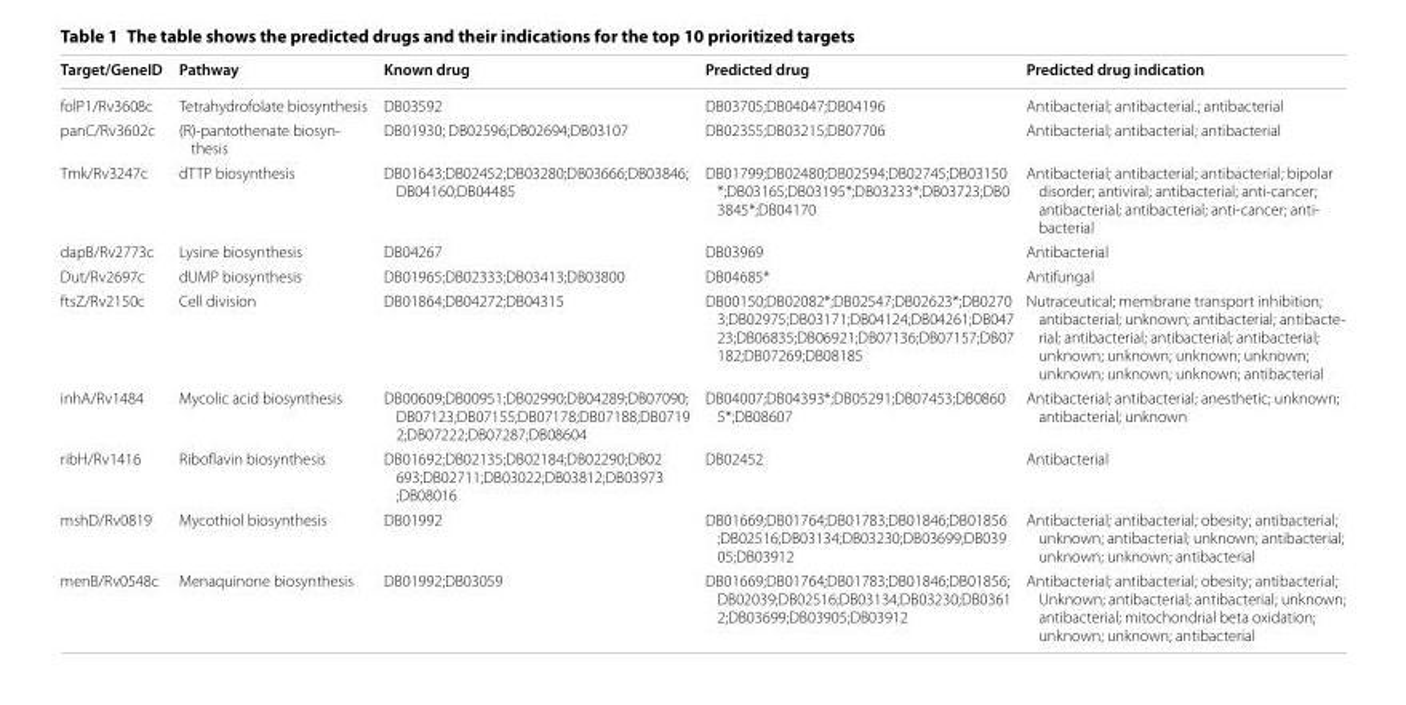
<table><thead><tr><td>Target/GeneID</td><td>Pathway</td><td>Known drug</td><td>Predicted drug</td><td>Predicted drug indication</td></tr></thead><tbody><tr><td>folP1/Rv3608c</td><td>Tetrahydrofolate biosynthesis</td><td>DB03592</td><td>DB03705;DB04047;DB04196</td><td>Antibacterial; antibacterial.; antibacterial</td></tr><tr><td>panC/Rv3602c</td><td>(R)-pantothenate biosyn- thesis</td><td>DB01930; DB02596;DB02694;DB03107</td><td>DB02355;DB03215;DB07706</td><td>Antibacterial; antibacterial; antibacterial</td></tr><tr><td>Tmk/Rv3247c</td><td>dTTP biosynthesis</td><td>DB01643;DB02452;DB03280;DB03666;DB03846; DB04160;DB04485</td><td>DB01799;DB02480;DB02594;DB02745;DB03150 *;DB03165;DB03195*;DB03233*;DB03723;DB0 3845*;DB04170</td><td>Antibacterial; antibacterial; antibacterial; bipolar disorder; antiviral; antibacterial; anti-cancer; antibacterial; antibacterial; anti-cancer; anti- bacterial</td></tr><tr><td>dapB/Rv2773c</td><td>Lysine biosynthesis</td><td>DB04267</td><td>DB03969</td><td>Antibacterial</td></tr><tr><td>Dut/Rv2697c</td><td>dUMP biosynthesis</td><td>DB01965;DB02333;DB03413;DB03800</td><td>DB04685*</td><td>Antifungal</td></tr><tr><td>ftsZ/Rv2150c</td><td>Cell division</td><td>DB01864;DB04272;DB04315</td><td>DB00150;DB02082*;DB02547;DB02623*;DB0270 3;DB02975;DB03171;DB04124;DB04261;DB047 23;DB06835;DB06921;DB07136;DB07157;DB07 182;DB07269;DB08185</td><td>Nutraceutical; membrane transport inhibition; antibacterial; unknown; antibacterial; antibacte- rial; antibacterial; antibacterial; antibacterial; unknown; unknown; unknown; unknown; unknown; unknown; unknown; antibacterial</td></tr><tr><td>inhA/Rv1484</td><td>Mycolic acid biosynthesis</td><td>DB00609;DB00951;DB02990;DB04289;DB07090; DB07123;DB07155;DB07178;DB07188;DB0719 2;DB07222;DB07287;DB08604</td><td>DB04007;DB04393*;DB05291;DB07453;DB0860 5*;DB08607</td><td>Antibacterial; antibacterial; anesthetic; unknown; antibacterial; unknown</td></tr><tr><td>ribH/Rv1416</td><td>Riboflavin biosynthesis</td><td>DB01692;DB02135;DB02184;DB02290;DB02 693;DB02711;DB03022;DB03812;DB03973 ;DB08016</td><td>DB02452</td><td>Antibacterial</td></tr><tr><td>mshD/Rv0819</td><td>Mycothiol biosynthesis</td><td>DB01992</td><td>DB01669;DB01764;DB01783;DB01846;DB01856 ;DB02516;DB03134;DB03230;DB03699;DB039 05;DB03912</td><td>Antibacterial; antibacterial; obesity; antibacterial; unknown; antibacterial; unknown; antibacterial; unknown; unknown; antibacterial</td></tr><tr><td>menB/Rv0548c</td><td>Menaquinone biosynthesis</td><td>DB01992;DB03059</td><td>DB01669;DB01764;DB01783;DB01846;DB01856; DB02039;DB02516;DB03134;DB03230;DB0361 2;DB03699;DB03905;DB03912</td><td>Antibacterial; antibacterial; obesity; antibacterial; Unknown; antibacterial; antibacterial; unknown; antibacterial; mitochondrial beta oxidation; unknown; unknown; antibacterial</td></tr></tbody></table>